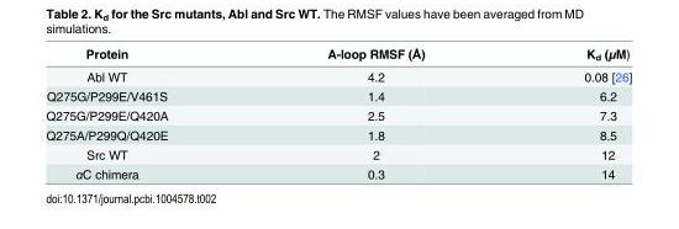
<table><thead><tr><td>Protein</td><td>A-loop RMSF (Å)</td><td>K<sub>d</sub> (μM)</td></tr></thead><tbody><tr><td>Abl WT</td><td>4.2</td><td>0.08 [26]</td></tr><tr><td>Q275G/P299E/V461S</td><td>1.4</td><td>6.2</td></tr><tr><td>Q275G/P299E/Q420A</td><td>2.5</td><td>7.3</td></tr><tr><td>Q275A/P299Q/Q420E</td><td>1.8</td><td>8.5</td></tr><tr><td>Src WT</td><td>2</td><td>12</td></tr><tr><td>αC chimera</td><td>0.3</td><td>14</td></tr></tbody></table>